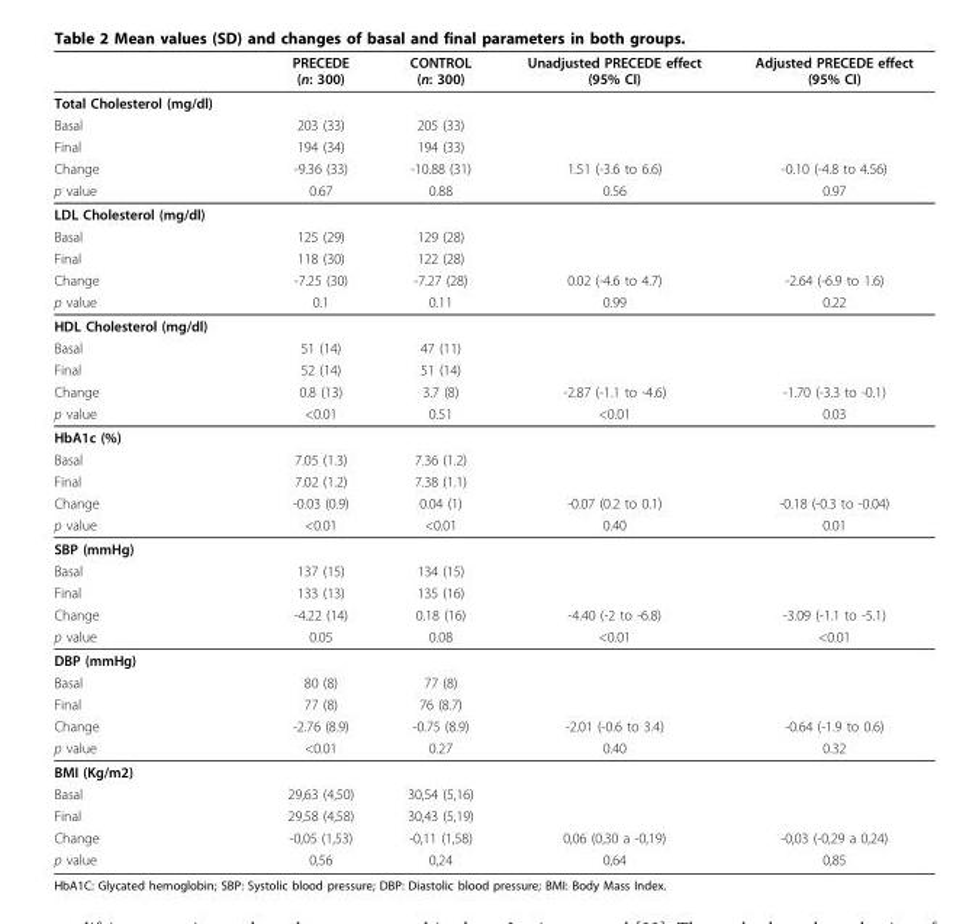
<table><thead><tr><td></td><td>PRECEDE (n: 300)</td><td>CONTROL (n: 300)</td><td>Unadjusted PRECEDE effect (95% CI)</td><td>Adjusted PRECEDE effect (95% CI)</td></tr></thead><tbody><tr><td colspan="5">Total Cholesterol (mg/dl)</td></tr><tr><td>Basal</td><td>203 (33)</td><td>205 (33)</td><td></td><td></td></tr><tr><td>Final</td><td>194 (34)</td><td>194 (33)</td><td></td><td></td></tr><tr><td>Change</td><td>-9.36 (33)</td><td>-10.88 (31)</td><td>1.51 (-3.6 to 6.6)</td><td>-0.10 (-4.8 to 4.56)</td></tr><tr><td>p value</td><td>0.67</td><td>0.88</td><td>0.56</td><td>0.97</td></tr><tr><td colspan="5">LDL Cholesterol (mg/dl)</td></tr><tr><td>Basal</td><td>125 (29)</td><td>129 (28)</td><td></td><td></td></tr><tr><td>Final</td><td>118 (30)</td><td>122 (28)</td><td></td><td></td></tr><tr><td>Change</td><td>-7.25 (30)</td><td>-7.27 (28)</td><td>0.02 (-4.6 to 4.7)</td><td>-2.64 (-6.9 to 1.6)</td></tr><tr><td>p value</td><td>0.1</td><td>0.11</td><td>0.99</td><td>0.22</td></tr><tr><td colspan="5">HDL Cholesterol (mg/dl)</td></tr><tr><td>Basal</td><td>51 (14)</td><td>47 (11)</td><td></td><td></td></tr><tr><td>Final</td><td>52 (14)</td><td>51 (14)</td><td></td><td></td></tr><tr><td>Change</td><td>0.8 (13)</td><td>3.7 (8)</td><td>-2.87 (-1.1 to -4.6)</td><td>-1.70 (-3.3 to -0.1)</td></tr><tr><td>p value</td><td>&lt;0.01</td><td>0.51</td><td>&lt;0.01</td><td>0.03</td></tr><tr><td colspan="5">HbA1c (%)</td></tr><tr><td>Basal</td><td>7.05 (1.3)</td><td>7.36 (1.2)</td><td></td><td></td></tr><tr><td>Final</td><td>7.02 (1.2)</td><td>7.38 (1.1)</td><td></td><td></td></tr><tr><td>Change</td><td>-0.03 (0.9)</td><td>0.04 (1)</td><td>-0.07 (0.2 to 0.1)</td><td>-0.18 (-0.3 to -0.04)</td></tr><tr><td>p value</td><td>&lt;0.01</td><td>&lt;0.01</td><td>0.40</td><td>0.01</td></tr><tr><td colspan="5">SBP (mmHg)</td></tr><tr><td>Basal</td><td>137 (15)</td><td>134 (15)</td><td></td><td></td></tr><tr><td>Final</td><td>133 (13)</td><td>135 (16)</td><td></td><td></td></tr><tr><td>Change</td><td>-4.22 (14)</td><td>0.18 (16)</td><td>-4.40 (-2 to -6.8)</td><td>-3.09 (-1.1 to -5.1)</td></tr><tr><td>p value</td><td>0.05</td><td>0.08</td><td>&lt;0.01</td><td>&lt;0.01</td></tr><tr><td colspan="5">DBP (mmHg)</td></tr><tr><td>Basal</td><td>80 (8)</td><td>77 (8)</td><td></td><td></td></tr><tr><td>Final</td><td>77 (8)</td><td>76 (8.7)</td><td></td><td></td></tr><tr><td>Change</td><td>-2.76 (8.9)</td><td>-0.75 (8.9)</td><td>-2.01 (-0.6 to 3.4)</td><td>-0.64 (-1.9 to 0.6)</td></tr><tr><td>p value</td><td>&lt;0.01</td><td>0.27</td><td>0.40</td><td>0.32</td></tr><tr><td colspan="5">BMI (Kg/m2)</td></tr><tr><td>Basal</td><td>29,63 (4,50)</td><td>30,54 (5,16)</td><td></td><td></td></tr><tr><td>Final</td><td>29,58 (4,58)</td><td>30,43 (5,19)</td><td></td><td></td></tr><tr><td>Change</td><td>-0,05 (1,53)</td><td>-0,11 (1,58)</td><td>0,06 (0,30 a -0,19)</td><td>-0,03 (-0,29 a 0,24)</td></tr><tr><td>p value</td><td>0,56</td><td>0,24</td><td>0,64</td><td>0,85</td></tr></tbody></table>